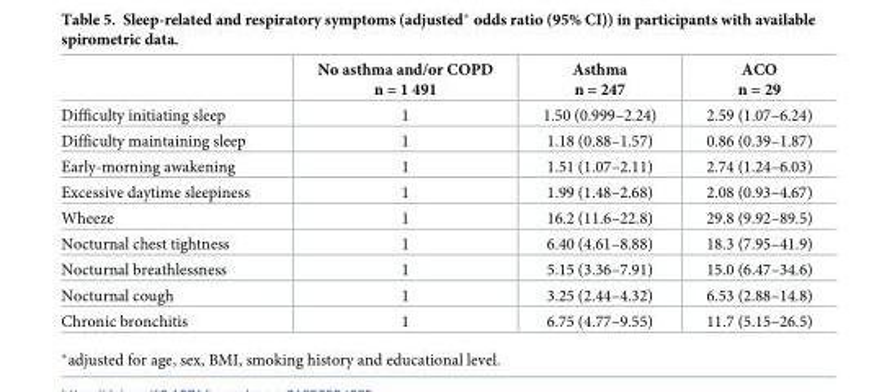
<table><thead><tr><td></td><td>No asthma and/or COPD n = 1 491</td><td>Asthma n = 247</td><td>ACO n = 29</td></tr></thead><tbody><tr><td>Difficulty initiating sleep</td><td>1</td><td>1.50 (0.999–2.24)</td><td>2.59 (1.07–6.24)</td></tr><tr><td>Difficulty maintaining sleep</td><td>1</td><td>1.18 (0.88–1.57)</td><td>0.86 (0.39–1.87)</td></tr><tr><td>Early-morning awakening</td><td>1</td><td>1.51 (1.07–2.11)</td><td>2.74 (1.24–6.03)</td></tr><tr><td>Excessive daytime sleepiness</td><td>1</td><td>1.99 (1.48–2.68)</td><td>2.08 (0.93–4.67)</td></tr><tr><td>Wheeze</td><td>1</td><td>16.2 (11.6–22.8)</td><td>29.8 (9.92–89.5)</td></tr><tr><td>Nocturnal chest tightness</td><td>1</td><td>6.40 (4.61–8.88)</td><td>18.3 (7.95–41.9)</td></tr><tr><td>Nocturnal breathlessness</td><td>1</td><td>5.15 (3.36–7.91)</td><td>15.0 (6.47–34.6)</td></tr><tr><td>Nocturnal cough</td><td>1</td><td>3.25 (2.44–4.32)</td><td>6.53 (2.88–14.8)</td></tr><tr><td>Chronic bronchitis</td><td>1</td><td>6.75 (4.77–9.55)</td><td>11.7 (5.15–26.5)</td></tr></tbody></table>